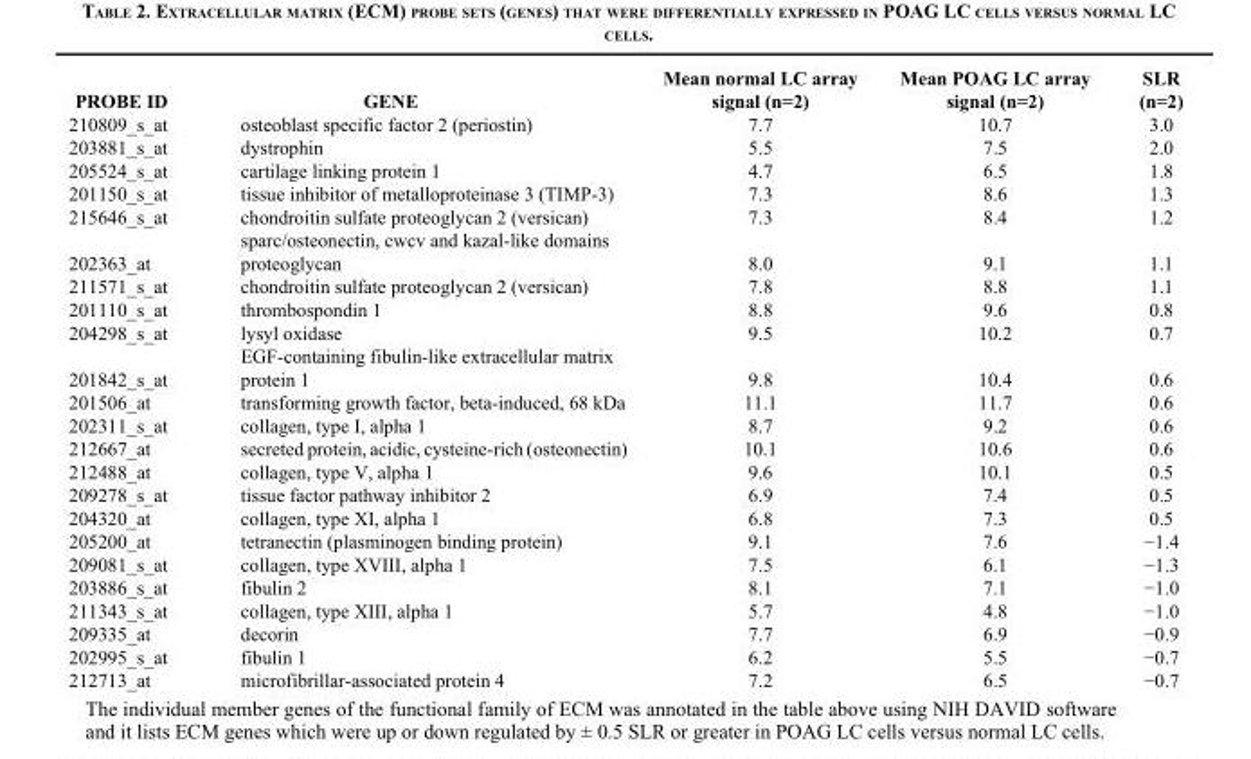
<table><thead><tr><td>PROBE ID</td><td>GENE</td><td>Mean normal LC array signal (n=2)</td><td>Mean POAG LC array signal (n=2)</td><td>SLR (n=2)</td></tr></thead><tbody><tr><td>210809_s_at</td><td>osteoblast specific factor 2 (periostin)</td><td>7.7</td><td>10.7</td><td>3.0</td></tr><tr><td>203881_s_at</td><td>dystrophin</td><td>5.5</td><td>7.5</td><td>2.0</td></tr><tr><td>205524_s_at</td><td>cartilage linking protein 1</td><td>4.7</td><td>6.5</td><td>1.8</td></tr><tr><td>201150_s_at</td><td>tissue inhibitor of metalloproteinase 3 (TIMP-3)</td><td>7.3</td><td>8.6</td><td>1.3</td></tr><tr><td>215646_s_at</td><td>chondroitin sulfate proteoglycan 2 (versican)</td><td>7.3</td><td>8.4</td><td>1.2</td></tr><tr><td>202363_at</td><td>sparc/osteonectin, cwcv and kazal-like domains proteoglycan</td><td>8.0</td><td>9.1</td><td>1.1</td></tr><tr><td>211571_s_at</td><td>chondroitin sulfate proteoglycan 2 (versican)</td><td>7.8</td><td>8.8</td><td>1.1</td></tr><tr><td>201110_s_at</td><td>thrombospondin 1</td><td>8.8</td><td>9.6</td><td>0.8</td></tr><tr><td>204298_s_at</td><td>lysyl oxidase</td><td>9.5</td><td>10.2</td><td>0.7</td></tr><tr><td>201842_s_at</td><td>EGF-containing fibulin-like extracellular matrix protein 1</td><td>9.8</td><td>10.4</td><td>0.6</td></tr><tr><td>201506_at</td><td>transforming growth factor, beta-induced, 68 kDa</td><td>11.1</td><td>11.7</td><td>0.6</td></tr><tr><td>202311_s_at</td><td>collagen, type I, alpha 1</td><td>8.7</td><td>9.2</td><td>0.6</td></tr><tr><td>212667_at</td><td>secreted protein, acidic, cysteine-rich (osteonectin)</td><td>10.1</td><td>10.6</td><td>0.6</td></tr><tr><td>212488_at</td><td>collagen, type V, alpha 1</td><td>9.6</td><td>10.1</td><td>0.5</td></tr><tr><td>209278_s_at</td><td>tissue factor pathway inhibitor 2</td><td>6.9</td><td>7.4</td><td>0.5</td></tr><tr><td>204320_at</td><td>collagen, type XI, alpha 1</td><td>6.8</td><td>7.3</td><td>0.5</td></tr><tr><td>205200_at</td><td>tetranectin (plasminogen binding protein)</td><td>9.1</td><td>7.6</td><td>−1.4</td></tr><tr><td>209081_s_at</td><td>collagen, type XVIII, alpha 1</td><td>7.5</td><td>6.1</td><td>−1.3</td></tr><tr><td>203886_s_at</td><td>fibulin 2</td><td>8.1</td><td>7.1</td><td>−1.0</td></tr><tr><td>211343_s_at</td><td>collagen, type XIII, alpha 1</td><td>5.7</td><td>4.8</td><td>−1.0</td></tr><tr><td>209335_at</td><td>decorin</td><td>7.7</td><td>6.9</td><td>−0.9</td></tr><tr><td>202995_s_at</td><td>fibulin 1</td><td>6.2</td><td>5.5</td><td>−0.7</td></tr><tr><td>212713_at</td><td>microfibrillar-associated protein 4</td><td>7.2</td><td>6.5</td><td>−0.7</td></tr></tbody></table>